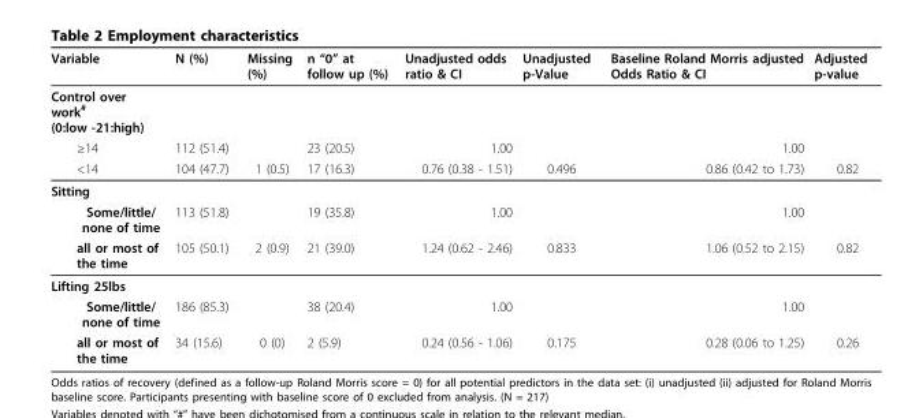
<table><thead><tr><td>Variable</td><td>N (%)</td><td>Missing (%)</td><td>n “0” at follow up (%)</td><td>Unadjusted odds ratio &amp; CI</td><td>Unadjusted p-Value</td><td>Baseline Roland Morris adjusted Odds Ratio &amp; CI</td><td>Adjusted p-value</td></tr></thead><tbody><tr><td colspan="8">Control over work<sup>#</sup> (0:low -21:high)</td></tr><tr><td>≥14</td><td>112 (51.4)</td><td></td><td>23 (20.5)</td><td>1.00</td><td></td><td>1.00</td><td></td></tr><tr><td>&lt;14</td><td>104 (47.7)</td><td>1 (0.5)</td><td>17 (16.3)</td><td>0.76 (0.38 - 1.51)</td><td>0.496</td><td>0.86 (0.42 to 1.73)</td><td>0.82</td></tr><tr><td colspan="8">Sitting</td></tr><tr><td>Some/little/ none of time</td><td>113 (51.8)</td><td></td><td>19 (35.8)</td><td>1.00</td><td></td><td>1.00</td><td></td></tr><tr><td>all or most of the time</td><td>105 (50.1)</td><td>2 (0.9)</td><td>21 (39.0)</td><td>1.24 (0.62 - 2.46)</td><td>0.833</td><td>1.06 (0.52 to 2.15)</td><td>0.82</td></tr><tr><td colspan="8">Lifting 25lbs</td></tr><tr><td>Some/little/ none of time</td><td>186 (85.3)</td><td></td><td>38 (20.4)</td><td>1.00</td><td></td><td>1.00</td><td></td></tr><tr><td>all or most of the time</td><td>34 (15.6)</td><td>0 (0)</td><td>2 (5.9)</td><td>0.24 (0.56 - 1.06)</td><td>0.175</td><td>0.28 (0.06 to 1.25)</td><td>0.26</td></tr></tbody></table>